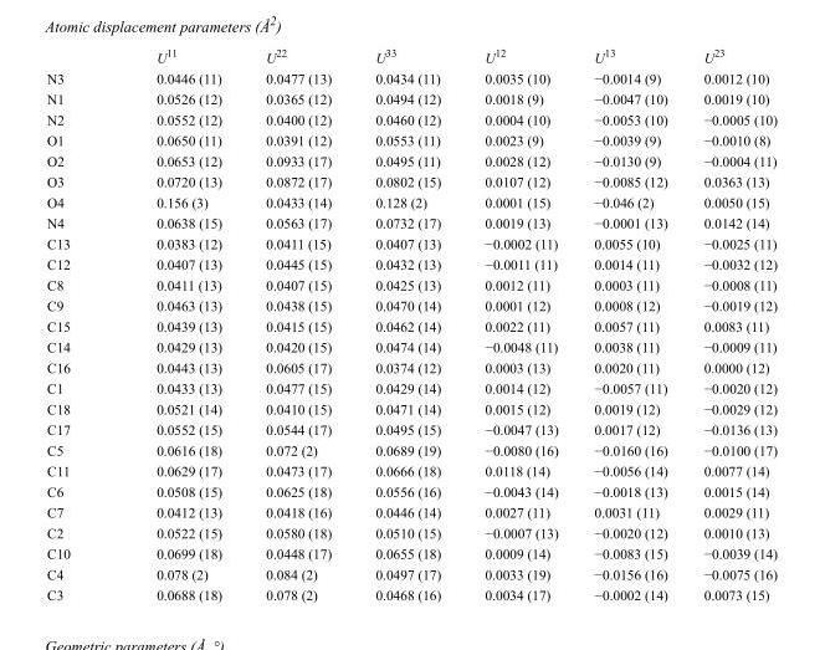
<table><thead><tr><td></td><td>U<sup>11</sup></td><td>U<sup>22</sup></td><td>U<sup>33</sup></td><td>U<sup>12</sup></td><td>U<sup>13</sup></td><td>U<sup>23</sup></td></tr></thead><tbody><tr><td>N3</td><td>0.0446 (11)</td><td>0.0477 (13)</td><td>0.0434 (11)</td><td>0.0035 (10)</td><td>−0.0014 (9)</td><td>0.0012 (10)</td></tr><tr><td>N1</td><td>0.0526 (12)</td><td>0.0365 (12)</td><td>0.0494 (12)</td><td>0.0018 (9)</td><td>−0.0047 (10)</td><td>0.0019 (10)</td></tr><tr><td>N2</td><td>0.0552 (12)</td><td>0.0400 (12)</td><td>0.0460 (12)</td><td>0.0004 (10)</td><td>−0.0053 (10)</td><td>−0.0005 (10)</td></tr><tr><td>O1</td><td>0.0650 (11)</td><td>0.0391 (12)</td><td>0.0553 (11)</td><td>0.0023 (9)</td><td>−0.0039 (9)</td><td>−0.0010 (8)</td></tr><tr><td>O2</td><td>0.0653 (12)</td><td>0.0933 (17)</td><td>0.0495 (11)</td><td>0.0028 (12)</td><td>−0.0130 (9)</td><td>−0.0004 (11)</td></tr><tr><td>O3</td><td>0.0720 (13)</td><td>0.0872 (17)</td><td>0.0802 (15)</td><td>0.0107 (12)</td><td>−0.0085 (12)</td><td>0.0363 (13)</td></tr><tr><td>O4</td><td>0.156 (3)</td><td>0.0433 (14)</td><td>0.128 (2)</td><td>0.0001 (15)</td><td>−0.046 (2)</td><td>0.0050 (15)</td></tr><tr><td>N4</td><td>0.0638 (15)</td><td>0.0563 (17)</td><td>0.0732 (17)</td><td>0.0019 (13)</td><td>−0.0001 (13)</td><td>0.0142 (14)</td></tr><tr><td>C13</td><td>0.0383 (12)</td><td>0.0411 (15)</td><td>0.0407 (13)</td><td>−0.0002 (11)</td><td>0.0055 (10)</td><td>−0.0025 (11)</td></tr><tr><td>C12</td><td>0.0407 (13)</td><td>0.0445 (15)</td><td>0.0432 (13)</td><td>−0.0011 (11)</td><td>0.0014 (11)</td><td>−0.0032 (12)</td></tr><tr><td>C8</td><td>0.0411 (13)</td><td>0.0407 (15)</td><td>0.0425 (13)</td><td>0.0012 (11)</td><td>0.0003 (11)</td><td>−0.0008 (11)</td></tr><tr><td>C9</td><td>0.0463 (13)</td><td>0.0438 (15)</td><td>0.0470 (14)</td><td>0.0001 (12)</td><td>0.0008 (12)</td><td>−0.0019 (12)</td></tr><tr><td>C15</td><td>0.0439 (13)</td><td>0.0415 (15)</td><td>0.0462 (14)</td><td>0.0022 (11)</td><td>0.0057 (11)</td><td>0.0083 (11)</td></tr><tr><td>C14</td><td>0.0429 (13)</td><td>0.0420 (15)</td><td>0.0474 (14)</td><td>−0.0048 (11)</td><td>0.0038 (11)</td><td>−0.0009 (11)</td></tr><tr><td>C16</td><td>0.0443 (13)</td><td>0.0605 (17)</td><td>0.0374 (12)</td><td>0.0003 (13)</td><td>0.0020 (11)</td><td>0.0000 (12)</td></tr><tr><td>C1</td><td>0.0433 (13)</td><td>0.0477 (15)</td><td>0.0429 (14)</td><td>0.0014 (12)</td><td>−0.0057 (11)</td><td>−0.0020 (12)</td></tr><tr><td>C18</td><td>0.0521 (14)</td><td>0.0410 (15)</td><td>0.0471 (14)</td><td>0.0015 (12)</td><td>0.0019 (12)</td><td>−0.0029 (12)</td></tr><tr><td>C17</td><td>0.0552 (15)</td><td>0.0544 (17)</td><td>0.0495 (15)</td><td>−0.0047 (13)</td><td>0.0017 (12)</td><td>−0.0136 (13)</td></tr><tr><td>C5</td><td>0.0616 (18)</td><td>0.072 (2)</td><td>0.0689 (19)</td><td>−0.0080 (16)</td><td>−0.0160 (16)</td><td>−0.0100 (17)</td></tr><tr><td>C11</td><td>0.0629 (17)</td><td>0.0473 (17)</td><td>0.0666 (18)</td><td>0.0118 (14)</td><td>−0.0056 (14)</td><td>0.0077 (14)</td></tr><tr><td>C6</td><td>0.0508 (15)</td><td>0.0625 (18)</td><td>0.0556 (16)</td><td>−0.0043 (14)</td><td>−0.0018 (13)</td><td>0.0015 (14)</td></tr><tr><td>C7</td><td>0.0412 (13)</td><td>0.0418 (16)</td><td>0.0446 (14)</td><td>0.0027 (11)</td><td>0.0031 (11)</td><td>0.0029 (11)</td></tr><tr><td>C2</td><td>0.0522 (15)</td><td>0.0580 (18)</td><td>0.0510 (15)</td><td>−0.0007 (13)</td><td>−0.0020 (12)</td><td>0.0010 (13)</td></tr><tr><td>C10</td><td>0.0699 (18)</td><td>0.0448 (17)</td><td>0.0655 (18)</td><td>0.0009 (14)</td><td>−0.0083 (15)</td><td>−0.0039 (14)</td></tr><tr><td>C4</td><td>0.078 (2)</td><td>0.084 (2)</td><td>0.0497 (17)</td><td>0.0033 (19)</td><td>−0.0156 (16)</td><td>−0.0075 (16)</td></tr><tr><td>C3</td><td>0.0688 (18)</td><td>0.078 (2)</td><td>0.0468 (16)</td><td>0.0034 (17)</td><td>−0.0002 (14)</td><td>0.0073 (15)</td></tr></tbody></table>